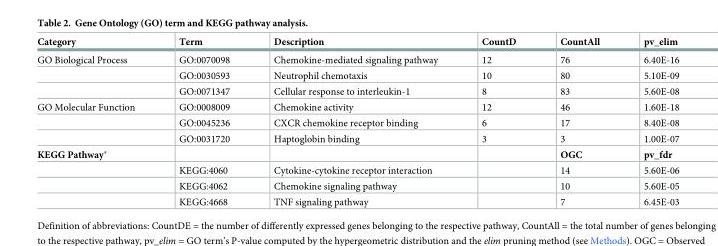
<table><tbody><tr><td>Category</td><td>Term</td><td>Description</td><td>CountD</td><td>CountAll</td><td>pv_elim</td></tr><tr><td rowspan="3">GO Biological Process</td><td>GO:0070098</td><td>Chemokine-mediated signaling pathway</td><td>12</td><td>76</td><td>6.40E-16</td></tr><tr><td>GO:0030593</td><td>Neutrophil chemotaxis</td><td>10</td><td>80</td><td>5.10E-09</td></tr><tr><td>GO:0071347</td><td>Cellular response to interleukin-1</td><td>8</td><td>83</td><td>5.60E-08</td></tr><tr><td rowspan="3">GO Molecular Function</td><td>GO:0008009</td><td>Chemokine activity</td><td>12</td><td>46</td><td>1.60E-18</td></tr><tr><td>GO:0045236</td><td>CXCR chemokine receptor binding</td><td>6</td><td>17</td><td>8.40E-08</td></tr><tr><td>GO:0031720</td><td>Haptoglobin binding</td><td>3</td><td>3</td><td>1.00E-07</td></tr><tr><td rowspan="4">KEGG Pathway*</td><td></td><td></td><td></td><td>OGC</td><td>pv_fdr</td></tr><tr><td>KEGG:4060</td><td>Cytokine-cytokine receptor interaction</td><td></td><td>14</td><td>5.60E-06</td></tr><tr><td>KEGG:4062</td><td>Chemokine signaling pathway</td><td></td><td>10</td><td>5.60E-05</td></tr><tr><td>KEGG:4668</td><td>TNF signaling pathway</td><td></td><td>7</td><td>6.45E-03</td></tr></tbody></table>